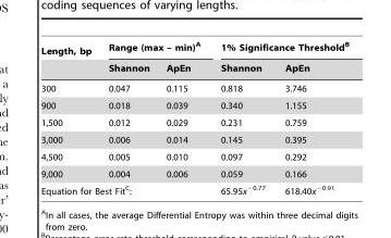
<table><thead><tr><td rowspan="2">Length, bp</td><td colspan="2">Range (max – min)<sup>A</sup></td><td colspan="2">1% Significance Threshold<sup>B</sup></td></tr><tr><td>Shannon</td><td>ApEn</td><td>Shannon</td><td>ApEn</td></tr></thead><tbody><tr><td>300</td><td>0.047</td><td>0.115</td><td>0.818</td><td>3.746</td></tr><tr><td>900</td><td>0.018</td><td>0.039</td><td>0.340</td><td>1.155</td></tr><tr><td>1,500</td><td>0.012</td><td>0.029</td><td>0.231</td><td>0.759</td></tr><tr><td>3,000</td><td>0.006</td><td>0.014</td><td>0.145</td><td>0.395</td></tr><tr><td>4,500</td><td>0.005</td><td>0.010</td><td>0.097</td><td>0.292</td></tr><tr><td>9,000</td><td>0.004</td><td>0.006</td><td>0.059</td><td>0.166</td></tr><tr><td colspan="3">Equation for Best Fit<sup>C</sup>:</td><td>65.95x<sup>−0.77</sup></td><td>618.40x<sup>−0.91</sup></td></tr></tbody></table>